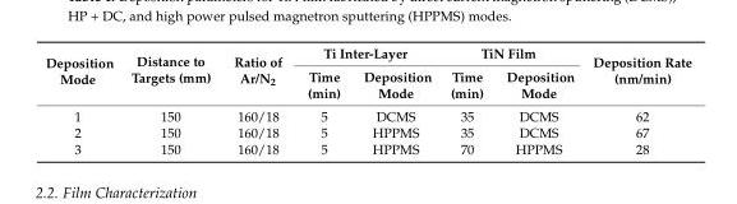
<table><thead><tr><td rowspan="2">Deposition Mode</td><td rowspan="2">Distance to Targets (mm)</td><td rowspan="2">Ratio of Ar/N<sub>2</sub></td><td colspan="2">Ti Inter-Layer</td><td colspan="2">TiN Film</td><td rowspan="2">Deposition Rate (nm/min)</td></tr><tr><td>Time (min)</td><td>Deposition Mode</td><td>Time (min)</td><td>Deposition Mode</td></tr></thead><tbody><tr><td>1</td><td>150</td><td>160/18</td><td>5</td><td>DCMS</td><td>35</td><td>DCMS</td><td>62</td></tr><tr><td>2</td><td>150</td><td>160/18</td><td>5</td><td>HPPMS</td><td>35</td><td>DCMS</td><td>67</td></tr><tr><td>3</td><td>150</td><td>160/18</td><td>5</td><td>HPPMS</td><td>70</td><td>HPPMS</td><td>28</td></tr></tbody></table>